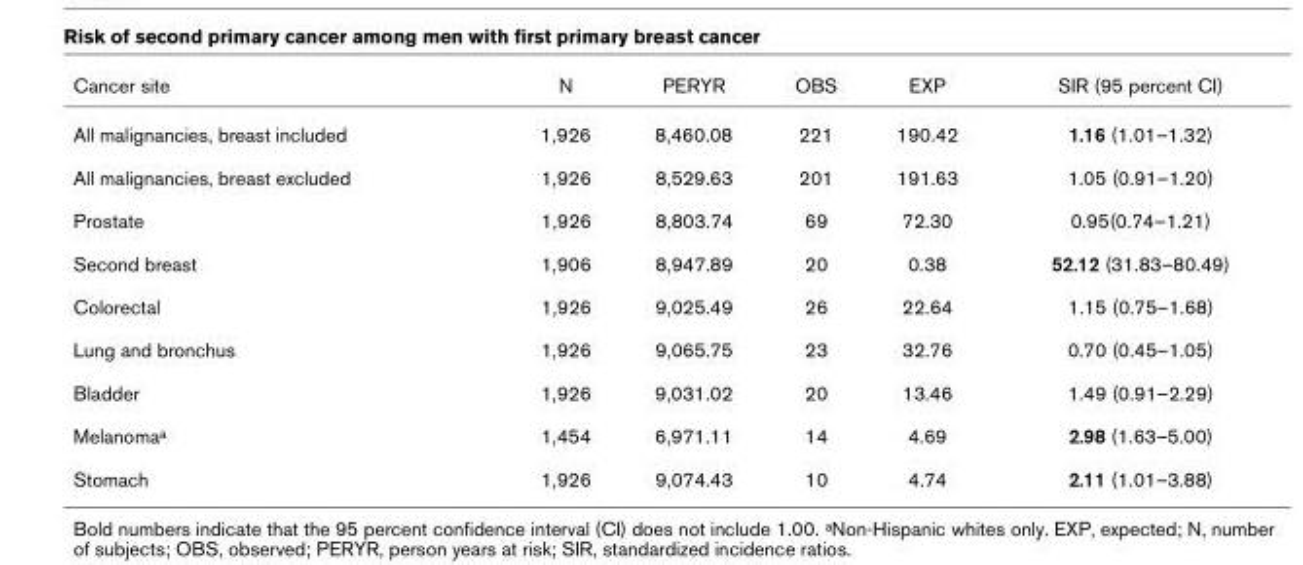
<table><thead><tr><td>Cancer site</td><td>N</td><td>PERYR</td><td>OBS</td><td>EXP</td><td>SIR (95 percent CI)</td></tr></thead><tbody><tr><td>All malignancies, breast included</td><td>1,926</td><td>8,460.08</td><td>221</td><td>190.42</td><td>1.16 (1.01–1.32)</td></tr><tr><td>All malignancies, breast excluded</td><td>1,926</td><td>8,529.63</td><td>201</td><td>191.63</td><td>1.05 (0.91–1.20)</td></tr><tr><td>Prostate</td><td>1,926</td><td>8,803.74</td><td>69</td><td>72.30</td><td>0.95(0.74–1.21)</td></tr><tr><td>Second breast</td><td>1,906</td><td>8,947.89</td><td>20</td><td>0.38</td><td>52.12 (31.83–80.49)</td></tr><tr><td>Colorectal</td><td>1,926</td><td>9,025.49</td><td>26</td><td>22.64</td><td>1.15 (0.75–1.68)</td></tr><tr><td>Lung and bronchus</td><td>1,926</td><td>9,065.75</td><td>23</td><td>32.76</td><td>0.70 (0.45–1.05)</td></tr><tr><td>Bladder</td><td>1,926</td><td>9,031.02</td><td>20</td><td>13.46</td><td>1.49 (0.91–2.29)</td></tr><tr><td>Melanomaa</td><td>1,454</td><td>6,971.11</td><td>14</td><td>4.69</td><td>2.98 (1.63–5.00)</td></tr><tr><td>Stomach</td><td>1,926</td><td>9,074.43</td><td>10</td><td>4.74</td><td>2.11 (1.01–3.88)</td></tr></tbody></table>